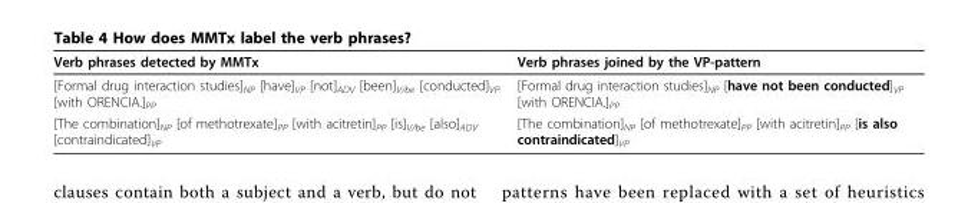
<table><thead><tr><td>Verb phrases detected by MMTx</td><td>Verb phrases joined by the VP-pattern</td></tr></thead><tbody><tr><td>[Formal drug interaction studies]<sub>NP</sub> [have]<sub>VP</sub> [not]<sub>ADV</sub> [been]<sub>V/be</sub> [conducted]<sub>VP</sub> [with ORENCIA.]<sub>PP</sub></td><td>[Formal drug interaction studies]<sub>NP</sub> [have not been conducted]<sub>VP</sub> [with ORENCIA.]<sub>PP</sub></td></tr><tr><td>[The combination]<sub>NP</sub> [of methotrexate]<sub>PP</sub> [with acitretin]<sub>PP</sub> [is]<sub>V/be</sub> [also]<sub>ADV</sub> [contraindicated]<sub>VP</sub></td><td>[The combination]<sub>NP</sub> [of methotrexate]<sub>PP</sub> [with acitretin]<sub>PP</sub> [is also contraindicated]<sub>VP</sub></td></tr></tbody></table>